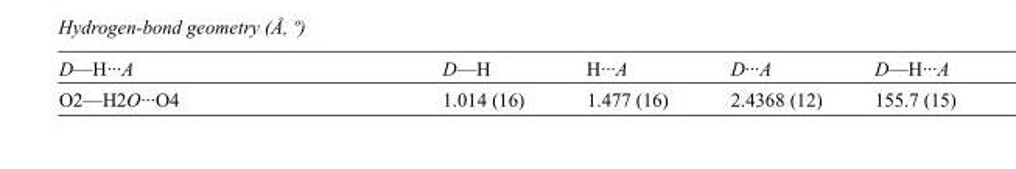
<table><tbody><tr><td>D—H···A</td><td>D—H</td><td>H···A</td><td>D···A</td><td>D—H···A</td></tr><tr><td>O2—H2O···O4</td><td>1.014 (16)</td><td>1.477 (16)</td><td>2.4368 (12)</td><td>155.7 (15)</td></tr></tbody></table>